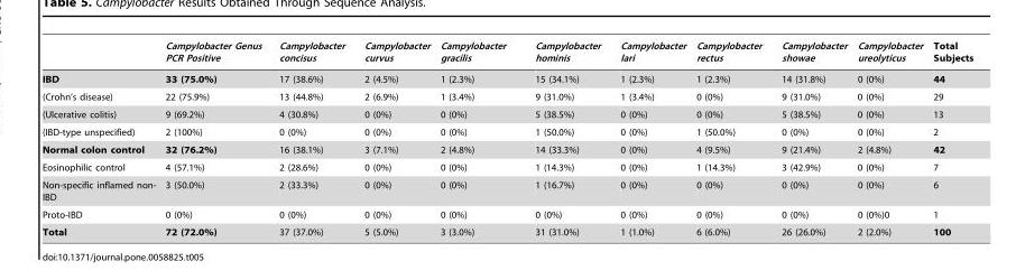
<table><thead><tr><td></td><td>Campylobacter Genus PCR Positive</td><td>Campylobacter concisus</td><td>Campylobacter curvus</td><td>Campylobacter gracilis</td><td>Campylobacter hominis</td><td>Campylobacter lari</td><td>Campylobacter rectus</td><td>Campylobacter showae</td><td>Campylobacter ureolyticus</td><td>Total Subjects</td></tr></thead><tbody><tr><td>IBD</td><td>33 (75.0%)</td><td>17 (38.6%)</td><td>2 (4.5%)</td><td>1 (2.3%)</td><td>15 (34.1%)</td><td>1 (2.3%)</td><td>1 (2.3%)</td><td>14 (31.8%)</td><td>0 (0%)</td><td>44</td></tr><tr><td>(Crohn’s disease)</td><td>22 (75.9%)</td><td>13 (44.8%)</td><td>2 (6.9%)</td><td>1 (3.4%)</td><td>9 (31.0%)</td><td>1 (3.4%)</td><td>0 (0%)</td><td>9 (31.0%)</td><td>0 (0%)</td><td>29</td></tr><tr><td>(Ulcerative colitis)</td><td>9 (69.2%)</td><td>4 (30.8%)</td><td>0 (0%)</td><td>0 (0%)</td><td>5 (38.5%)</td><td>0 (0%)</td><td>0 (0%)</td><td>5 (38.5%)</td><td>0 (0%)</td><td>13</td></tr><tr><td>(IBD-type unspecified)</td><td>2 (100%)</td><td>0 (0%)</td><td>0 (0%)</td><td>0 (0%)</td><td>1 (50.0%)</td><td>0 (0%)</td><td>1 (50.0%)</td><td>0 (0%)</td><td>0 (0%)</td><td>2</td></tr><tr><td>Normal colon control</td><td>32 (76.2%)</td><td>16 (38.1%)</td><td>3 (7.1%)</td><td>2 (4.8%)</td><td>14 (33.3%)</td><td>0 (0%)</td><td>4 (9.5%)</td><td>9 (21.4%)</td><td>2 (4.8%)</td><td>42</td></tr><tr><td>Eosinophilic control</td><td>4 (57.1%)</td><td>2 (28.6%)</td><td>0 (0%)</td><td>0 (0%)</td><td>1 (14.3%)</td><td>0 (0%)</td><td>1 (14.3%)</td><td>3 (42.9%)</td><td>0 (0%)</td><td>7</td></tr><tr><td>Non-specific inflamed non- IBD</td><td>3 (50.0%)</td><td>2 (33.3%)</td><td>0 (0%)</td><td>0 (0%)</td><td>1 (16.7%)</td><td>0 (0%)</td><td>0 (0%)</td><td>0 (0%)</td><td>0 (0%)</td><td>6</td></tr><tr><td>Proto-IBD</td><td>0 (0%)</td><td>0 (0%)</td><td>0 (0%)</td><td>0 (0%)</td><td>0 (0%)</td><td>0 (0%)</td><td>0 (0%)</td><td>0 (0%)</td><td>0 (0%)0</td><td>1</td></tr><tr><td>Total</td><td>72 (72.0%)</td><td>37 (37.0%)</td><td>5 (5.0%)</td><td>3 (3.0%)</td><td>31 (31.0%)</td><td>1 (1.0%)</td><td>6 (6.0%)</td><td>26 (26.0%)</td><td>2 (2.0%)</td><td>100</td></tr></tbody></table>